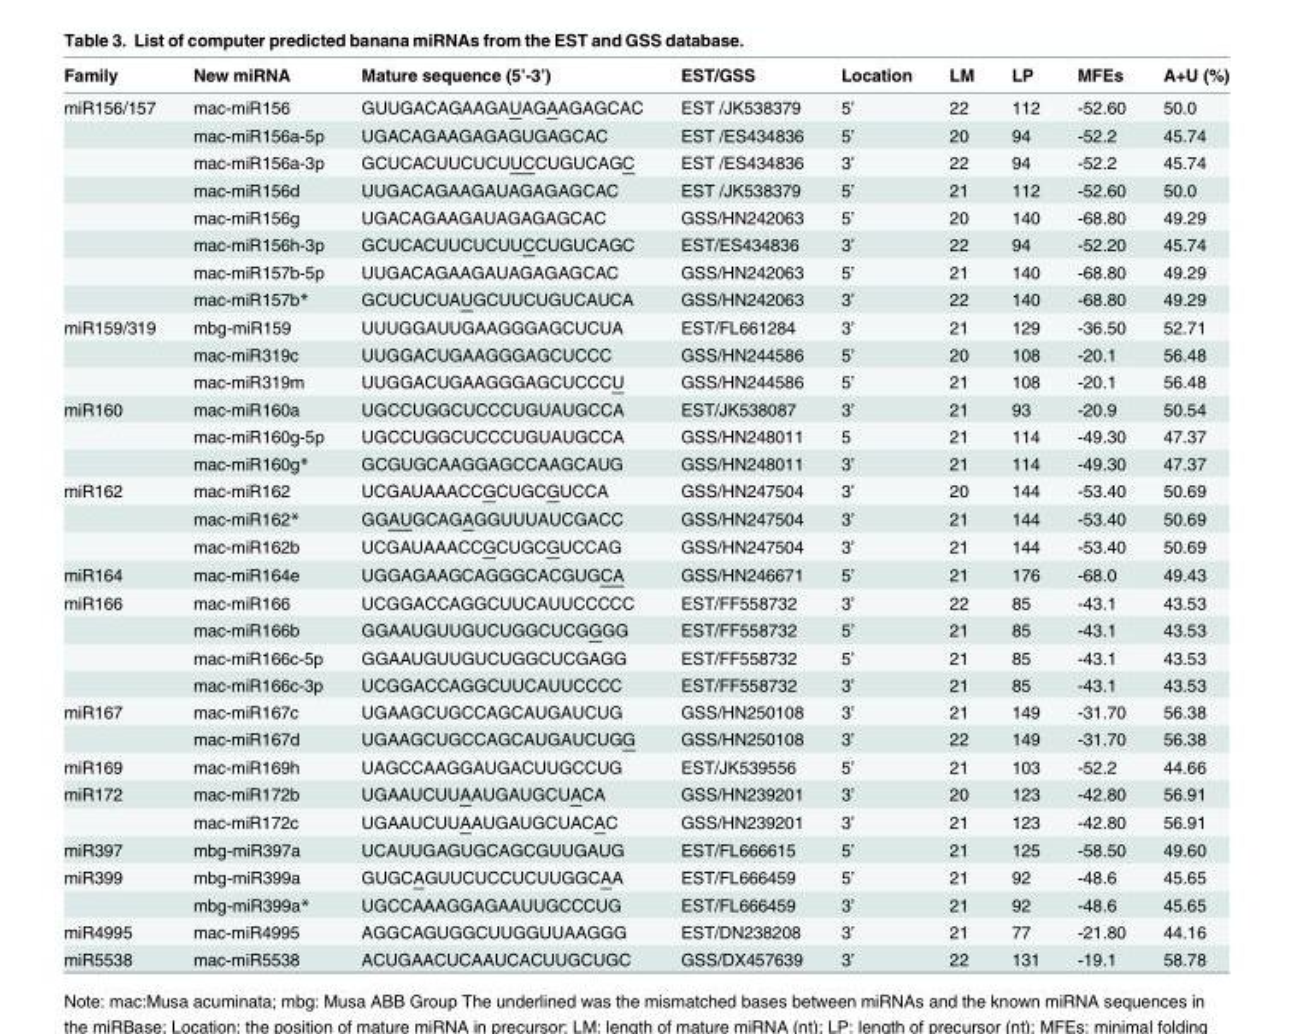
<table><thead><tr><td>Family</td><td>New miRNA</td><td>Mature sequence (5’-3’)</td><td>EST/GSS</td><td>Location</td><td>LM</td><td>LP</td><td>MFEs</td><td>A+U (%)</td></tr></thead><tbody><tr><td rowspan="8">miR156/157</td><td>mac-miR156</td><td>GUUGACAGAAGAUAGAAGAGCAC</td><td>EST /JK538379</td><td>5’</td><td>22</td><td>112</td><td>-52.60</td><td>50.0</td></tr><tr><td>mac-miR156a-5p</td><td>UGACAGAAGAGAGUGAGCAC</td><td>EST /ES434836</td><td>5’</td><td>20</td><td>94</td><td>-52.2</td><td>45.74</td></tr><tr><td>mac-miR156a-3p</td><td>GCUCACUUCUCUUCCUGUCAGC</td><td>EST /ES434836</td><td>3’</td><td>22</td><td>94</td><td>-52.2</td><td>45.74</td></tr><tr><td>mac-miR156d</td><td>UUGACAGAAGAUAGAGAGCAC</td><td>EST /JK538379</td><td>5’</td><td>21</td><td>112</td><td>-52.60</td><td>50.0</td></tr><tr><td>mac-miR156g</td><td>UGACAGAAGAUAGAGAGCAC</td><td>GSS/HN242063</td><td>5’</td><td>20</td><td>140</td><td>-68.80</td><td>49.29</td></tr><tr><td>mac-miR156h-3p</td><td>GCUCACUUCUCUUCCUGUCAGC</td><td>EST/ES434836</td><td>3’</td><td>22</td><td>94</td><td>-52.20</td><td>45.74</td></tr><tr><td>mac-miR157b-5p</td><td>UUGACAGAAGAUAGAGAGCAC</td><td>GSS/HN242063</td><td>5’</td><td>21</td><td>140</td><td>-68.80</td><td>49.29</td></tr><tr><td>mac-miR157b*</td><td>GCUCUCUAUGCUUCUGUCAUCA</td><td>GSS/HN242063</td><td>3’</td><td>22</td><td>140</td><td>-68.80</td><td>49.29</td></tr><tr><td rowspan="3">miR159/319</td><td>mbg-miR159</td><td>UUUGGAUUGAAGGGAGCUCUA</td><td>EST/FL661284</td><td>3’</td><td>21</td><td>129</td><td>-36.50</td><td>52.71</td></tr><tr><td>mac-miR319c</td><td>UUGGACUGAAGGGAGCUCCC</td><td>GSS/HN244586</td><td>5’</td><td>20</td><td>108</td><td>-20.1</td><td>56.48</td></tr><tr><td>mac-miR319m</td><td>UUGGACUGAAGGGAGCUCCCU</td><td>GSS/HN244586</td><td>5’</td><td>21</td><td>108</td><td>-20.1</td><td>56.48</td></tr><tr><td rowspan="3">miR160</td><td>mac-miR160a</td><td>UGCCUGGCUCCCUGUAUGCCA</td><td>EST/JK538087</td><td>3’</td><td>21</td><td>93</td><td>-20.9</td><td>50.54</td></tr><tr><td>mac-miR160g-5p</td><td>UGCCUGGCUCCCUGUAUGCCA</td><td>GSS/HN248011</td><td>5</td><td>21</td><td>114</td><td>-49.30</td><td>47.37</td></tr><tr><td>mac-miR160g*</td><td>GCGUGCAAGGAGCCAAGCAUG</td><td>GSS/HN248011</td><td>3’</td><td>21</td><td>114</td><td>-49.30</td><td>47.37</td></tr><tr><td rowspan="3">miR162</td><td>mac-miR162</td><td>UCGAUAAACCGCUGCGUCCA</td><td>GSS/HN247504</td><td>3’</td><td>20</td><td>144</td><td>-53.40</td><td>50.69</td></tr><tr><td>mac-miR162*</td><td>GGAUGCAGAGGUUUAUCGACC</td><td>GSS/HN247504</td><td>3’</td><td>21</td><td>144</td><td>-53.40</td><td>50.69</td></tr><tr><td>mac-miR162b</td><td>UCGAUAAACCGCUGCGUCCAG</td><td>GSS/HN247504</td><td>3’</td><td>21</td><td>144</td><td>-53.40</td><td>50.69</td></tr><tr><td>miR164</td><td>mac-miR164e</td><td>UGGAGAAGCAGGGCACGUGCA</td><td>GSS/HN246671</td><td>5’</td><td>21</td><td>176</td><td>-68.0</td><td>49.43</td></tr><tr><td rowspan="4">miR166</td><td>mac-miR166</td><td>UCGGACCAGGCUUCAUUCCCCC</td><td>EST/FF558732</td><td>3’</td><td>22</td><td>85</td><td>-43.1</td><td>43.53</td></tr><tr><td>mac-miR166b</td><td>GGAAUGUUGUCUGGCUCGGGG</td><td>EST/FF558732</td><td>5’</td><td>21</td><td>85</td><td>-43.1</td><td>43.53</td></tr><tr><td>mac-miR166c-5p</td><td>GGAAUGUUGUCUGGCUCGAGG</td><td>EST/FF558732</td><td>5’</td><td>21</td><td>85</td><td>-43.1</td><td>43.53</td></tr><tr><td>mac-miR166c-3p</td><td>UCGGACCAGGCUUCAUUCCCC</td><td>EST/FF558732</td><td>3’</td><td>21</td><td>85</td><td>-43.1</td><td>43.53</td></tr><tr><td rowspan="2">miR167</td><td>mac-miR167c</td><td>UGAAGCUGCCAGCAUGAUCUG</td><td>GSS/HN250108</td><td>3’</td><td>21</td><td>149</td><td>-31.70</td><td>56.38</td></tr><tr><td>mac-miR167d</td><td>UGAAGCUGCCAGCAUGAUCUGG</td><td>GSS/HN250108</td><td>3’</td><td>22</td><td>149</td><td>-31.70</td><td>56.38</td></tr><tr><td>miR169</td><td>mac-miR169h</td><td>UAGCCAAGGAUGACUUGCCUG</td><td>EST/JK539556</td><td>5’</td><td>21</td><td>103</td><td>-52.2</td><td>44.66</td></tr><tr><td rowspan="2">miR172</td><td>mac-miR172b</td><td>UGAAUCUUAAUGAUGCUACA</td><td>GSS/HN239201</td><td>3’</td><td>20</td><td>123</td><td>-42.80</td><td>56.91</td></tr><tr><td>mac-miR172c</td><td>UGAAUCUUAAUGAUGCUACAC</td><td>GSS/HN239201</td><td>3’</td><td>21</td><td>123</td><td>-42.80</td><td>56.91</td></tr><tr><td>miR397</td><td>mbg-miR397a</td><td>UCAUUGAGUGCAGCGUUGAUG</td><td>EST/FL666615</td><td>5’</td><td>21</td><td>125</td><td>-58.50</td><td>49.60</td></tr><tr><td rowspan="2">miR399</td><td>mbg-miR399a</td><td>GUGCAGUUCUCCUCUUGGCAA</td><td>EST/FL666459</td><td>5’</td><td>21</td><td>92</td><td>-48.6</td><td>45.65</td></tr><tr><td>mbg-miR399a*</td><td>UGCCAAAGGAGAAUUGCCCUG</td><td>EST/FL666459</td><td>3’</td><td>21</td><td>92</td><td>-48.6</td><td>45.65</td></tr><tr><td>miR4995</td><td>mac-miR4995</td><td>AGGCAGUGGCUUGGUUAAGGG</td><td>EST/DN238208</td><td>3’</td><td>21</td><td>77</td><td>-21.80</td><td>44.16</td></tr><tr><td>miR5538</td><td>mac-miR5538</td><td>ACUGAACUCAAUCACUUGCUGC</td><td>GSS/DX457639</td><td>3’</td><td>22</td><td>131</td><td>-19.1</td><td>58.78</td></tr></tbody></table>